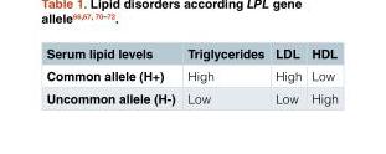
<table><thead><tr><td>Serum lipid levels</td><td>Triglycerides</td><td>LDL</td><td>HDL</td></tr></thead><tbody><tr><td>Common allele (H+)</td><td>High</td><td>High</td><td>Low</td></tr><tr><td>Uncommon allele (H-)</td><td>Low</td><td>Low</td><td>High</td></tr></tbody></table>